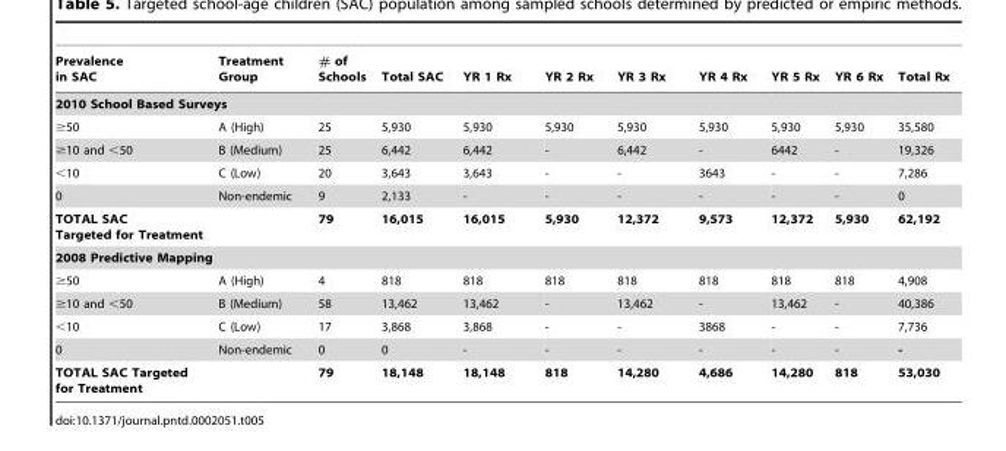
<table><thead><tr><td>Prevalence in SAC</td><td>Treatment Group</td><td># of Schools</td><td>Total SAC</td><td>YR 1 Rx</td><td>YR 2 Rx</td><td>YR 3 Rx</td><td>YR 4 Rx</td><td>YR 5 Rx</td><td>YR 6 Rx</td><td>Total Rx</td></tr></thead><tbody><tr><td colspan="11">2010 School Based Surveys</td></tr><tr><td>≥50</td><td>A (High)</td><td>25</td><td>5,930</td><td>5,930</td><td>5,930</td><td>5,930</td><td>5,930</td><td>5,930</td><td>5,930</td><td>35,580</td></tr><tr><td>≥10 and &lt;50</td><td>B (Medium)</td><td>25</td><td>6,442</td><td>6,442</td><td>-</td><td>6,442</td><td>-</td><td>6442</td><td>-</td><td>19,326</td></tr><tr><td>&lt;10</td><td>C (Low)</td><td>20</td><td>3,643</td><td>3,643</td><td>-</td><td>-</td><td>3643</td><td>-</td><td>-</td><td>7,286</td></tr><tr><td>0</td><td>Non-endemic</td><td>9</td><td>2,133</td><td>-</td><td>-</td><td>-</td><td>-</td><td>-</td><td>-</td><td>0</td></tr><tr><td colspan="2">TOTAL SAC Targeted for Treatment</td><td>79</td><td>16,015</td><td>16,015</td><td>5,930</td><td>12,372</td><td>9,573</td><td>12,372</td><td>5,930</td><td>62,192</td></tr><tr><td colspan="11">2008 Predictive Mapping</td></tr><tr><td>≥50</td><td>A (High)</td><td>4</td><td>818</td><td>818</td><td>818</td><td>818</td><td>818</td><td>818</td><td>818</td><td>4,908</td></tr><tr><td>≥10 and &lt;50</td><td>B (Medium)</td><td>58</td><td>13,462</td><td>13,462</td><td>-</td><td>13,462</td><td>-</td><td>13,462</td><td>-</td><td>40,386</td></tr><tr><td>&lt;10</td><td>C (Low)</td><td>17</td><td>3,868</td><td>3,868</td><td>-</td><td>-</td><td>3868</td><td>-</td><td>-</td><td>7,736</td></tr><tr><td>0</td><td>Non-endemic</td><td>0</td><td>0</td><td>-</td><td>-</td><td>-</td><td>-</td><td>-</td><td>-</td><td>-</td></tr><tr><td colspan="2">TOTAL SAC Targeted for Treatment</td><td>79</td><td>18,148</td><td>18,148</td><td>818</td><td>14,280</td><td>4,686</td><td>14,280</td><td>818</td><td>53,030</td></tr></tbody></table>